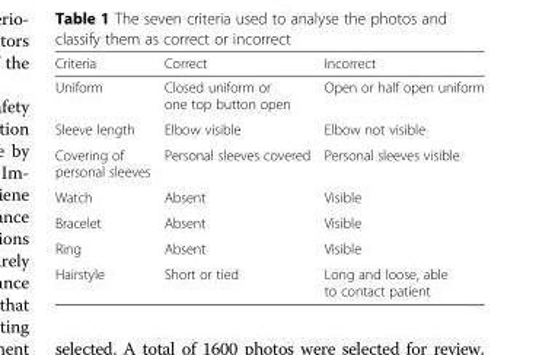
<table><thead><tr><td>Criteria</td><td>Correct</td><td>Incorrect</td></tr></thead><tbody><tr><td>Uniform</td><td>Closed uniform or one top button open</td><td>Open or half open uniform</td></tr><tr><td>Sleeve length</td><td>Elbow visible</td><td>Elbow not visible</td></tr><tr><td>Covering of personal sleeves</td><td>Personal sleeves covered</td><td>Personal sleeves visible</td></tr><tr><td>Watch</td><td>Absent</td><td>Visible</td></tr><tr><td>Bracelet</td><td>Absent</td><td>Visible</td></tr><tr><td>Ring</td><td>Absent</td><td>Visible</td></tr><tr><td>Hairstyle</td><td>Short or tied</td><td>Long and loose, able to contact patient</td></tr></tbody></table>